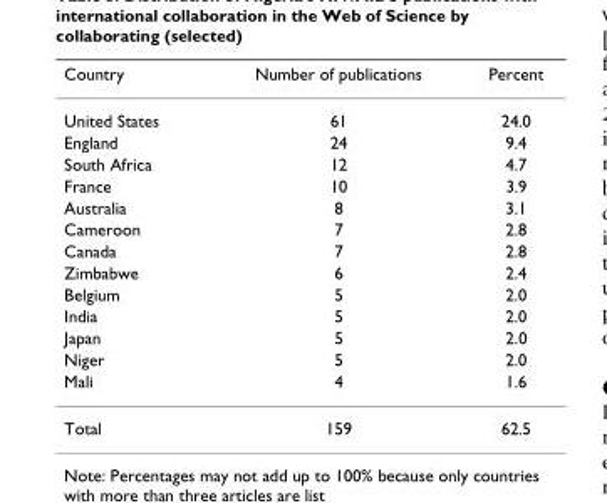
<table><thead><tr><td>Country</td><td>Number of publications</td><td>Percent</td></tr></thead><tbody><tr><td>United States</td><td>61</td><td>24.0</td></tr><tr><td>England</td><td>24</td><td>9.4</td></tr><tr><td>South Africa</td><td>12</td><td>4.7</td></tr><tr><td>France</td><td>10</td><td>3.9</td></tr><tr><td>Australia</td><td>8</td><td>3.1</td></tr><tr><td>Cameroon</td><td>7</td><td>2.8</td></tr><tr><td>Canada</td><td>7</td><td>2.8</td></tr><tr><td>Zimbabwe</td><td>6</td><td>2.4</td></tr><tr><td>Belgium</td><td>5</td><td>2.0</td></tr><tr><td>India</td><td>5</td><td>2.0</td></tr><tr><td>Japan</td><td>5</td><td>2.0</td></tr><tr><td>Niger</td><td>5</td><td>2.0</td></tr><tr><td>Mali</td><td>4</td><td>1.6</td></tr><tr><td>Total</td><td>159</td><td>62.5</td></tr></tbody></table>